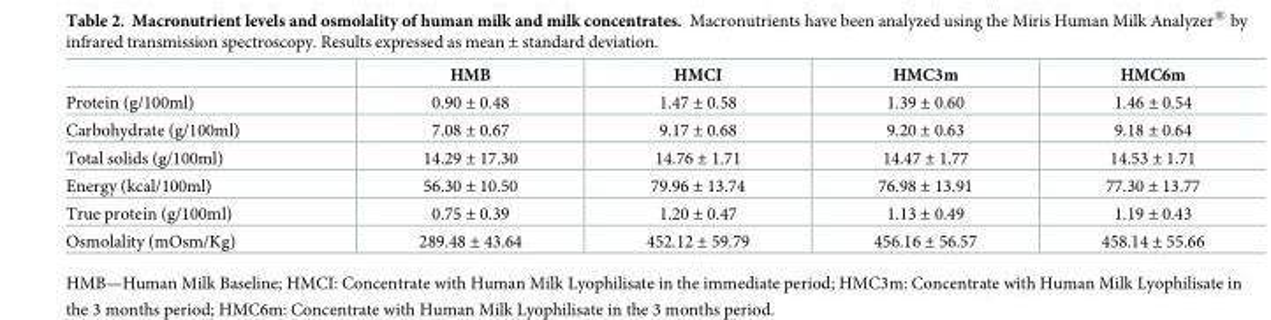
<table><thead><tr><td></td><td>HMB</td><td>HMCI</td><td>HMC3m</td><td>HMC6m</td></tr></thead><tbody><tr><td>Protein (g/100ml)</td><td>0.90 ± 0.48</td><td>1.47 ± 0.58</td><td>1.39 ± 0.60</td><td>1.46 ± 0.54</td></tr><tr><td>Carbohydrate (g/100ml)</td><td>7.08 ± 0.67</td><td>9.17 ± 0.68</td><td>9.20 ± 0.63</td><td>9.18 ± 0.64</td></tr><tr><td>Total solids (g/100ml)</td><td>14.29 ± 17.30</td><td>14.76 ± 1.71</td><td>14.47 ± 1.77</td><td>14.53 ± 1.71</td></tr><tr><td>Energy (kcal/100ml)</td><td>56.30 ± 10.50</td><td>79.96 ± 13.74</td><td>76.98 ± 13.91</td><td>77.30 ± 13.77</td></tr><tr><td>True protein (g/100ml)</td><td>0.75 ± 0.39</td><td>1.20 ± 0.47</td><td>1.13 ± 0.49</td><td>1.19 ± 0.43</td></tr><tr><td>Osmolality (mOsm/Kg)</td><td>289.48 ± 43.64</td><td>452.12 ± 59.79</td><td>456.16 ± 56.57</td><td>458.14 ± 55.66</td></tr></tbody></table>